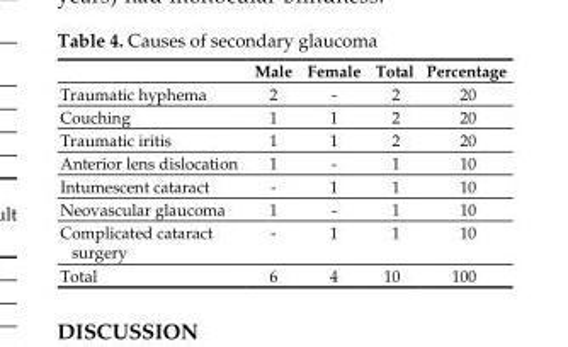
<table><thead><tr><td></td><td>Male</td><td>Female</td><td>Total</td><td>Percentage</td></tr></thead><tbody><tr><td>Traumatic hyphema</td><td>2</td><td>-</td><td>2</td><td>20</td></tr><tr><td>Couching</td><td>1</td><td>1</td><td>2</td><td>20</td></tr><tr><td>Traumatic iritis</td><td>1</td><td>1</td><td>2</td><td>20</td></tr><tr><td>Anterior lens dislocation</td><td>1</td><td>-</td><td>1</td><td>10</td></tr><tr><td>Intumescent cataract</td><td>-</td><td>1</td><td>1</td><td>10</td></tr><tr><td>Neovascular glaucoma</td><td>1</td><td>-</td><td>1</td><td>10</td></tr><tr><td>Complicated cataract surgery</td><td>-</td><td>1</td><td>1</td><td>10</td></tr><tr><td>Total</td><td>6</td><td>4</td><td>10</td><td>100</td></tr></tbody></table>